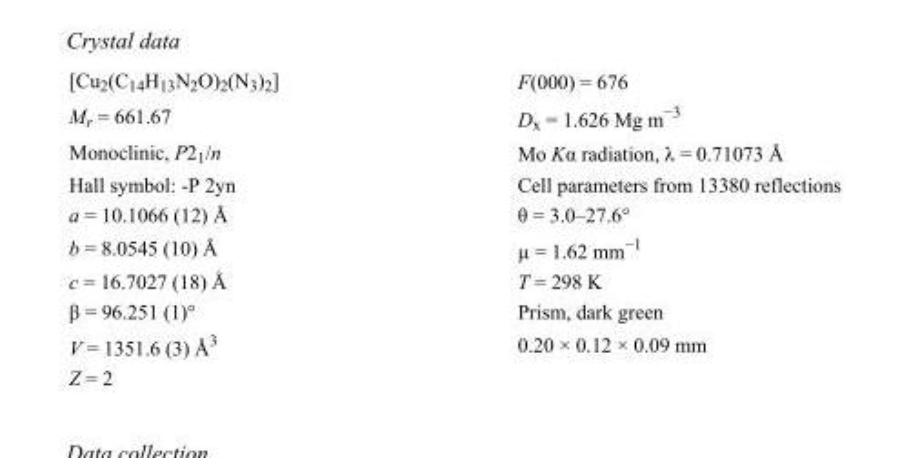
<table><tbody><tr><td>[Cu<sub>2</sub>(C<sub>14</sub>H<sub>13</sub>N<sub>2</sub>O)<sub>2</sub>(N<sub>3</sub>)<sub>2</sub>]</td><td>F(000) = 676</td></tr><tr><td>M<sub>r</sub> = 661.67</td><td>D<sub>x</sub> = 1.626 Mg m<sup>−3</sup></td></tr><tr><td>Monoclinic, P2<sub>1</sub>/n</td><td>Mo Kα radiation, λ = 0.71073 Å</td></tr><tr><td>Hall symbol: -P 2yn</td><td>Cell parameters from 13380 reflections</td></tr><tr><td>a = 10.1066 (12) Å</td><td>θ = 3.0–27.6°</td></tr><tr><td>b = 8.0545 (10) Å</td><td>µ = 1.62 mm<sup>−1</sup></td></tr><tr><td>c = 16.7027 (18) Å</td><td>T = 298 K</td></tr><tr><td>β = 96.251 (1)°</td><td>Prism, dark green</td></tr><tr><td>V = 1351.6 (3) Å<sup>3</sup></td><td>0.20 × 0.12 × 0.09 mm</td></tr><tr><td>Z = 2</td><td></td></tr></tbody></table>